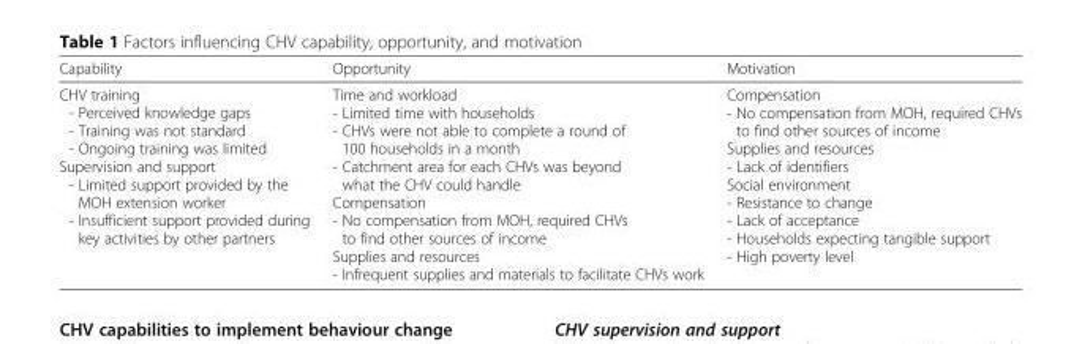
<table><thead><tr><td>Capability</td><td>Opportunity</td><td>Motivation</td></tr></thead><tbody><tr><td>CHV training - Perceived knowledge gaps - Training was not standard - Ongoing training was limited Supervision and support - Limited support provided by the MOH extension worker - Insufficient support provided during key activities by other partners</td><td>Time and workload - Limited time with households - CHVs were not able to complete a round of 100 households in a month - Catchment area for each CHVs was beyond what the CHV could handle Compensation - No compensation from MOH, required CHVs to find other sources of income Supplies and resources - Infrequent supplies and materials to facilitate CHVs work</td><td>Compensation - No compensation from MOH, required CHVs to find other sources of income Supplies and resources - Lack of identifiers Social environment - Resistance to change - Lack of acceptance - Households expecting tangible support - High poverty level</td></tr></tbody></table>